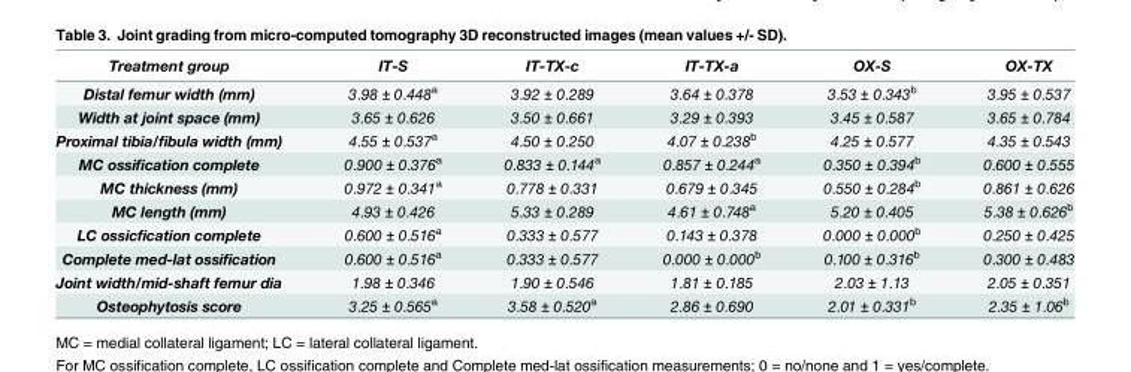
<table><thead><tr><td>Treatment group</td><td>IT-S</td><td>IT-TX-c</td><td>IT-TX-a</td><td>OX-S</td><td>OX-TX</td></tr></thead><tbody><tr><td>Distal femur width (mm)</td><td>3.98 ± 0.448<sup>a</sup></td><td>3.92 ± 0.289</td><td>3.64 ± 0.378</td><td>3.53 ± 0.343<sup>b</sup></td><td>3.95 ± 0.537</td></tr><tr><td>Width at joint space (mm)</td><td>3.65 ± 0.626</td><td>3.50 ± 0.661</td><td>3.29 ± 0.393</td><td>3.45 ± 0.587</td><td>3.65 ± 0.784</td></tr><tr><td>Proximal tibia/fibula width (mm)</td><td>4.55 ± 0.537<sup>a</sup></td><td>4.50 ± 0.250</td><td>4.07 ± 0.238<sup>b</sup></td><td>4.25 ± 0.577</td><td>4.35 ± 0.543</td></tr><tr><td>MC ossification complete</td><td>0.900 ± 0.376<sup>a</sup></td><td>0.833 ± 0.144<sup>a</sup></td><td>0.857 ± 0.244<sup>a</sup></td><td>0.350 ± 0.394<sup>b</sup></td><td>0.600 ± 0.555</td></tr><tr><td>MC thickness (mm)</td><td>0.972 ± 0.341<sup>a</sup></td><td>0.778 ± 0.331</td><td>0.679 ± 0.345</td><td>0.550 ± 0.284<sup>b</sup></td><td>0.861 ± 0.626</td></tr><tr><td>MC length (mm)</td><td>4.93 ± 0.426</td><td>5.33 ± 0.289</td><td>4.61 ± 0.748<sup>a</sup></td><td>5.20 ± 0.405</td><td>5.38 ± 0.626<sup>b</sup></td></tr><tr><td>LC ossicfication complete</td><td>0.600 ± 0.516<sup>a</sup></td><td>0.333 ± 0.577</td><td>0.143 ± 0.378</td><td>0.000 ± 0.000<sup>b</sup></td><td>0.250 ± 0.425</td></tr><tr><td>Complete med-lat ossification</td><td>0.600 ± 0.516<sup>a</sup></td><td>0.333 ± 0.577</td><td>0.000 ± 0.000<sup>b</sup></td><td>0.100 ± 0.316<sup>b</sup></td><td>0.300 ± 0.483</td></tr><tr><td>Joint width/mid-shaft femur dia</td><td>1.98 ± 0.346</td><td>1.90 ± 0.546</td><td>1.81 ± 0.185</td><td>2.03 ± 1.13</td><td>2.05 ± 0.351</td></tr><tr><td>Osteophytosis score</td><td>3.25 ± 0.565<sup>a</sup></td><td>3.58 ± 0.520<sup>a</sup></td><td>2.86 ± 0.690</td><td>2.01 ± 0.331<sup>b</sup></td><td>2.35 ± 1.06<sup>b</sup></td></tr></tbody></table>